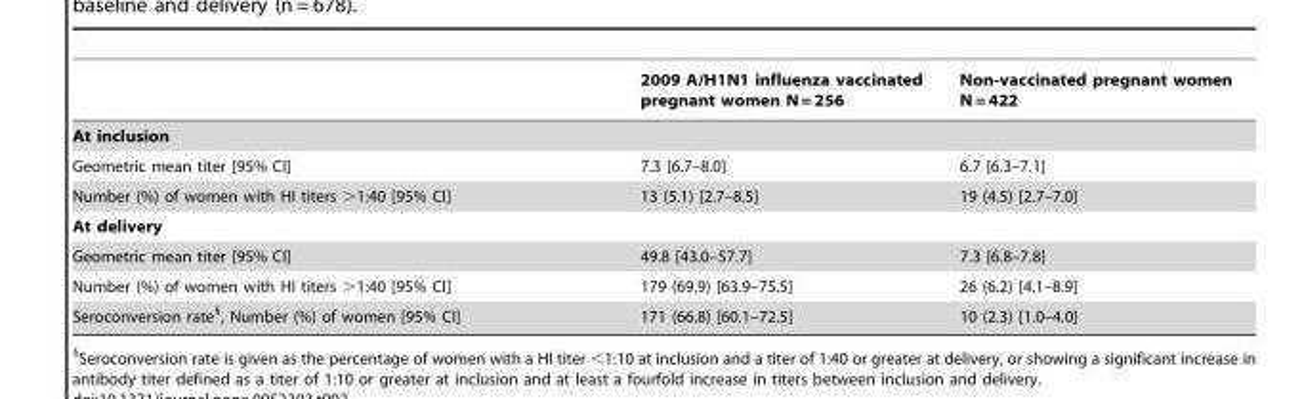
<table><thead><tr><td></td><td>2009 A/H1N1 influenza vaccinated pregnant women N = 256</td><td>Non-vaccinated pregnant women N = 422</td></tr></thead><tbody><tr><td colspan="3">At inclusion</td></tr><tr><td>Geometric mean titer [95% CI]</td><td>7.3 [6.7–8.0]</td><td>6.7 [6.3–7.1]</td></tr><tr><td>Number (%) of women with HI titers &gt;1:40 [95% CI]</td><td>13 (5.1) [2.7–8.5]</td><td>19 (4.5) [2.7–7.0]</td></tr><tr><td colspan="3">At delivery</td></tr><tr><td>Geometric mean titer [95% CI]</td><td>49.8 [43.0–57.7]</td><td>7.3 [6.8–7.8]</td></tr><tr><td>Number (%) of women with HI titers &gt;1:40 [95% CI]</td><td>179 (69.9) [63.9–75.5]</td><td>26 (6.2) [4.1–8.9]</td></tr><tr><td>Seroconversion rate§, Number (%) of women [95% CI]</td><td>171 (66.8) [60.1–72.5]</td><td>10 (2.3) [1.0–4.0]</td></tr></tbody></table>